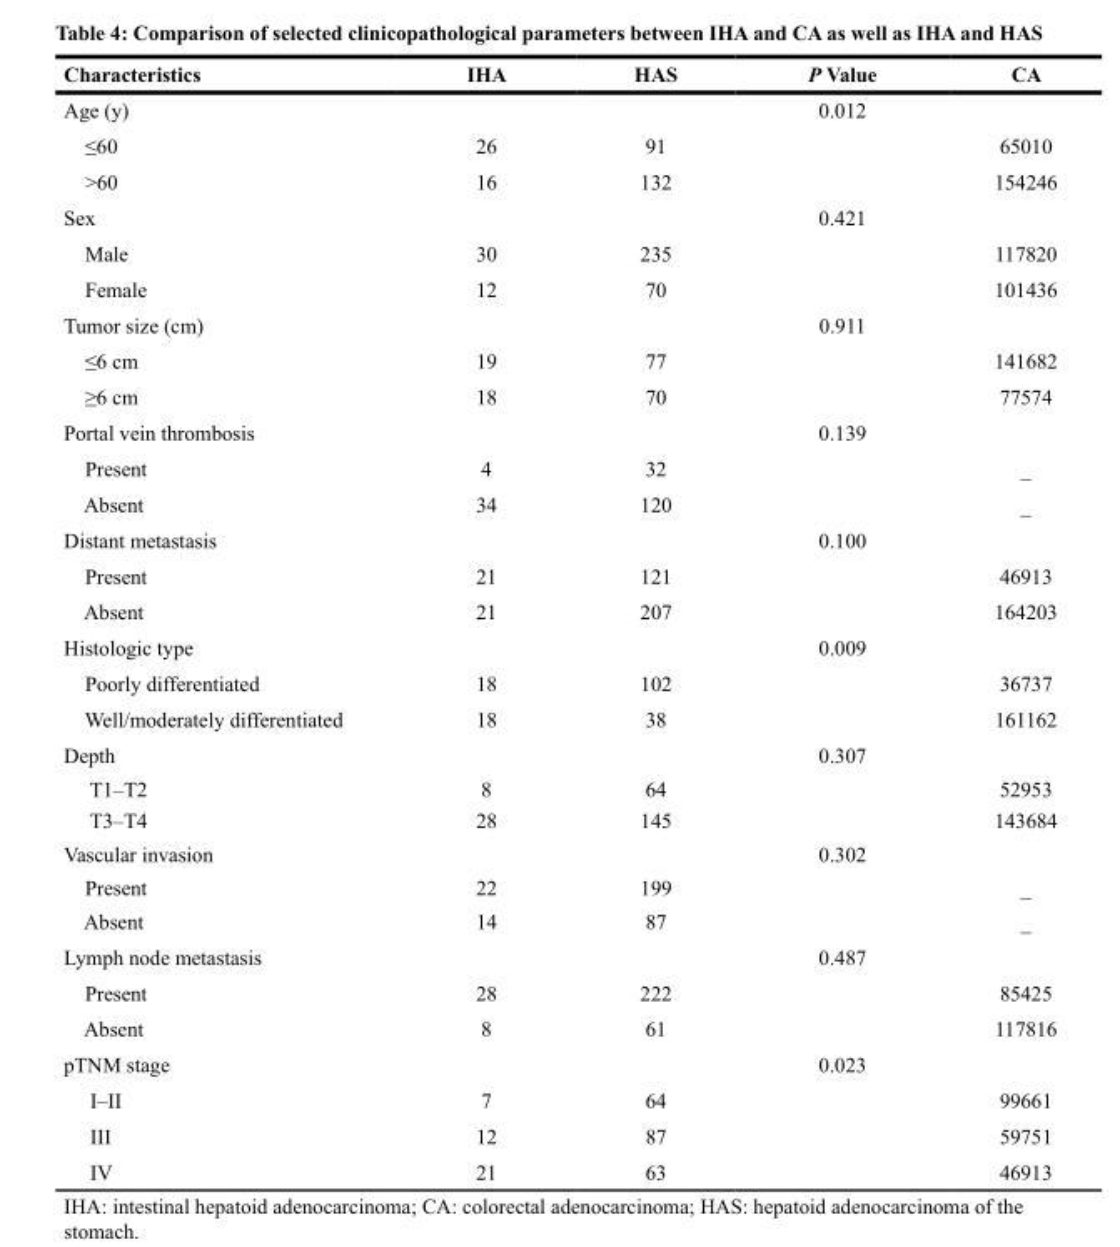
<table><thead><tr><td>Characteristics</td><td>IHA</td><td>HAS</td><td>P Value</td><td>CA</td></tr></thead><tbody><tr><td>Age (y)</td><td></td><td></td><td>0.012</td><td></td></tr><tr><td>≤60</td><td>26</td><td>91</td><td></td><td>65010</td></tr><tr><td>&gt;60</td><td>16</td><td>132</td><td></td><td>154246</td></tr><tr><td>Sex</td><td></td><td></td><td>0.421</td><td></td></tr><tr><td>Male</td><td>30</td><td>235</td><td></td><td>117820</td></tr><tr><td>Female</td><td>12</td><td>70</td><td></td><td>101436</td></tr><tr><td>Tumor size (cm)</td><td></td><td></td><td>0.911</td><td></td></tr><tr><td>≤6 cm</td><td>19</td><td>77</td><td></td><td>141682</td></tr><tr><td>≥6 cm</td><td>18</td><td>70</td><td></td><td>77574</td></tr><tr><td>Portal vein thrombosis</td><td></td><td></td><td>0.139</td><td></td></tr><tr><td>Present</td><td>4</td><td>32</td><td></td><td>_</td></tr><tr><td>Absent</td><td>34</td><td>120</td><td></td><td>_</td></tr><tr><td>Distant metastasis</td><td></td><td></td><td>0.100</td><td></td></tr><tr><td>Present</td><td>21</td><td>121</td><td></td><td>46913</td></tr><tr><td>Absent</td><td>21</td><td>207</td><td></td><td>164203</td></tr><tr><td>Histologic type</td><td></td><td></td><td>0.009</td><td></td></tr><tr><td>Poorly differentiated</td><td>18</td><td>102</td><td></td><td>36737</td></tr><tr><td>Well/moderately differentiated</td><td>18</td><td>38</td><td></td><td>161162</td></tr><tr><td>Depth</td><td></td><td></td><td>0.307</td><td></td></tr><tr><td>T1–T2</td><td>8</td><td>64</td><td></td><td>52953</td></tr><tr><td>T3–T4</td><td>28</td><td>145</td><td></td><td>143684</td></tr><tr><td>Vascular invasion</td><td></td><td></td><td>0.302</td><td></td></tr><tr><td>Present</td><td>22</td><td>199</td><td></td><td>_</td></tr><tr><td>Absent</td><td>14</td><td>87</td><td></td><td>_</td></tr><tr><td>Lymph node metastasis</td><td></td><td></td><td>0.487</td><td></td></tr><tr><td>Present</td><td>28</td><td>222</td><td></td><td>85425</td></tr><tr><td>Absent</td><td>8</td><td>61</td><td></td><td>117816</td></tr><tr><td>pTNM stage</td><td></td><td></td><td>0.023</td><td></td></tr><tr><td>I–II</td><td>7</td><td>64</td><td></td><td>99661</td></tr><tr><td>III</td><td>12</td><td>87</td><td></td><td>59751</td></tr><tr><td>IV</td><td>21</td><td>63</td><td></td><td>46913</td></tr></tbody></table>